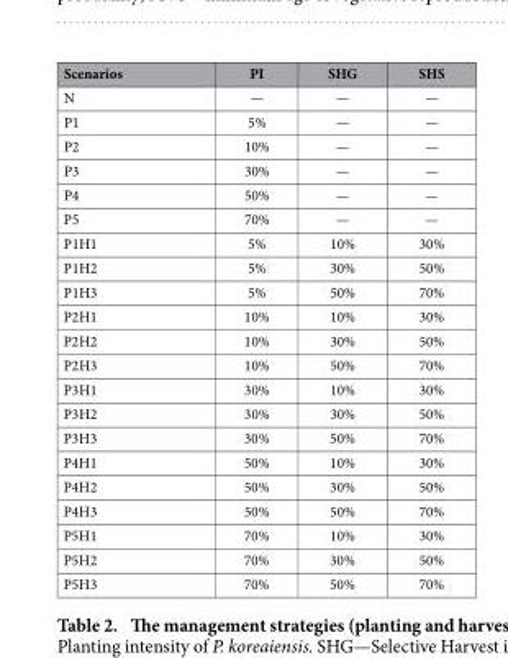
<table><thead><tr><td>Scenarios</td><td>PI</td><td>SHG</td><td>SHS</td></tr></thead><tbody><tr><td>N</td><td>—</td><td>—</td><td>—</td></tr><tr><td>P1</td><td>5%</td><td>—</td><td>—</td></tr><tr><td>P2</td><td>10%</td><td>—</td><td>—</td></tr><tr><td>P3</td><td>30%</td><td>—</td><td>—</td></tr><tr><td>P4</td><td>50%</td><td>—</td><td>—</td></tr><tr><td>P5</td><td>70%</td><td>—</td><td>—</td></tr><tr><td>P1H1</td><td>5%</td><td>10%</td><td>30%</td></tr><tr><td>P1H2</td><td>5%</td><td>30%</td><td>50%</td></tr><tr><td>P1H3</td><td>5%</td><td>50%</td><td>70%</td></tr><tr><td>P2H1</td><td>10%</td><td>10%</td><td>30%</td></tr><tr><td>P2H2</td><td>10%</td><td>30%</td><td>50%</td></tr><tr><td>P2H3</td><td>10%</td><td>50%</td><td>70%</td></tr><tr><td>P3H1</td><td>30%</td><td>10%</td><td>30%</td></tr><tr><td>P3H2</td><td>30%</td><td>30%</td><td>50%</td></tr><tr><td>P3H3</td><td>30%</td><td>50%</td><td>70%</td></tr><tr><td>P4H1</td><td>50%</td><td>10%</td><td>30%</td></tr><tr><td>P4H2</td><td>50%</td><td>30%</td><td>50%</td></tr><tr><td>P4H3</td><td>50%</td><td>50%</td><td>70%</td></tr><tr><td>P5H1</td><td>70%</td><td>10%</td><td>30%</td></tr><tr><td>P5H2</td><td>70%</td><td>30%</td><td>50%</td></tr><tr><td>P5H3</td><td>70%</td><td>50%</td><td>70%</td></tr></tbody></table>